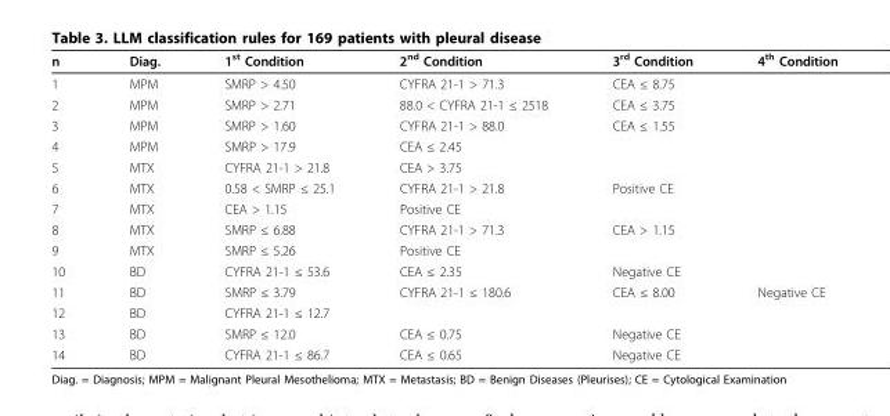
<table><thead><tr><td>n</td><td>Diag.</td><td>1<sup>st</sup> Condition</td><td>2<sup>nd</sup> Condition</td><td>3<sup>rd</sup> Condition</td><td>4<sup>th</sup> Condition</td></tr></thead><tbody><tr><td>1</td><td>MPM</td><td>SMRP &gt; 4.50</td><td>CYFRA 21-1 &gt; 71.3</td><td>CEA ≤ 8.75</td><td></td></tr><tr><td>2</td><td>MPM</td><td>SMRP &gt; 2.71</td><td>88.0 &lt; CYFRA 21-1 ≤ 2518</td><td>CEA ≤ 3.75</td><td></td></tr><tr><td>3</td><td>MPM</td><td>SMRP &gt; 1.60</td><td>CYFRA 21-1 &gt; 88.0</td><td>CEA ≤ 1.55</td><td></td></tr><tr><td>4</td><td>MPM</td><td>SMRP &gt; 17.9</td><td>CEA ≤ 2.45</td><td></td><td></td></tr><tr><td>5</td><td>MTX</td><td>CYFRA 21-1 &gt; 21.8</td><td>CEA &gt; 3.75</td><td></td><td></td></tr><tr><td>6</td><td>MTX</td><td>0.58 &lt; SMRP ≤ 25.1</td><td>CYFRA 21-1 &gt; 21.8</td><td>Positive CE</td><td></td></tr><tr><td>7</td><td>MTX</td><td>CEA &gt; 1.15</td><td>Positive CE</td><td></td><td></td></tr><tr><td>8</td><td>MTX</td><td>SMRP ≤ 6.88</td><td>CYFRA 21-1 &gt; 71.3</td><td>CEA &gt; 1.15</td><td></td></tr><tr><td>9</td><td>MTX</td><td>SMRP ≤ 5.26</td><td>Positive CE</td><td></td><td></td></tr><tr><td>10</td><td>BD</td><td>CYFRA 21-1 ≤ 53.6</td><td>CEA ≤ 2.35</td><td>Negative CE</td><td></td></tr><tr><td>11</td><td>BD</td><td>SMRP ≤ 3.79</td><td>CYFRA 21-1 ≤ 180.6</td><td>CEA ≤ 8.00</td><td>Negative CE</td></tr><tr><td>12</td><td>BD</td><td>CYFRA 21-1 ≤ 12.7</td><td></td><td></td><td></td></tr><tr><td>13</td><td>BD</td><td>SMRP ≤ 12.0</td><td>CEA ≤ 0.75</td><td>Negative CE</td><td></td></tr><tr><td>14</td><td>BD</td><td>CYFRA 21-1 ≤ 86.7</td><td>CEA ≤ 0.65</td><td>Negative CE</td><td></td></tr></tbody></table>